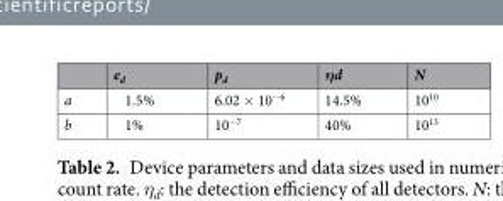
<table><thead><tr><td></td><td>e<sub>d</sub></td><td>p<sub>d</sub></td><td>ηd</td><td>N</td></tr></thead><tbody><tr><td>a</td><td>1.5%</td><td>6.02 × 10<sup>−6</sup></td><td>14.5%</td><td>10<sup>10</sup></td></tr><tr><td>b</td><td>1%</td><td>10<sup>−7</sup></td><td>40%</td><td>10<sup>13</sup></td></tr></tbody></table>